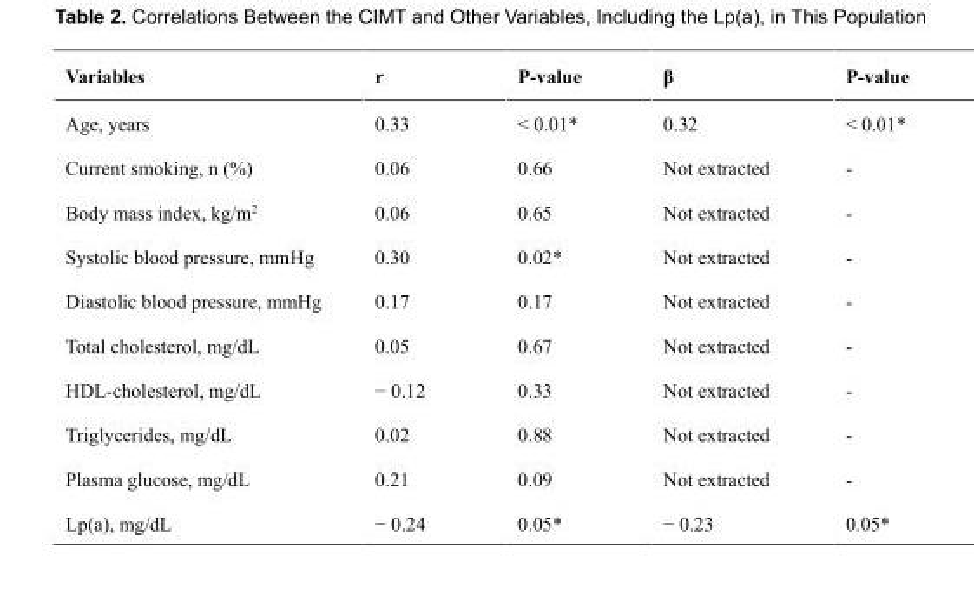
<table><thead><tr><td>Variables</td><td>r</td><td>P-value</td><td>β</td><td>P-value</td></tr></thead><tbody><tr><td>Age, years</td><td>0.33</td><td>&lt; 0.01*</td><td>0.32</td><td>&lt; 0.01*</td></tr><tr><td>Current smoking, n (%)</td><td>0.06</td><td>0.66</td><td>Not extracted</td><td>-</td></tr><tr><td>Body mass index, kg/m<sup>2</sup></td><td>0.06</td><td>0.65</td><td>Not extracted</td><td>-</td></tr><tr><td>Systolic blood pressure, mmHg</td><td>0.30</td><td>0.02*</td><td>Not extracted</td><td>-</td></tr><tr><td>Diastolic blood pressure, mmHg</td><td>0.17</td><td>0.17</td><td>Not extracted</td><td>-</td></tr><tr><td>Total cholesterol, mg/dL</td><td>0.05</td><td>0.67</td><td>Not extracted</td><td>-</td></tr><tr><td>HDL-cholesterol, mg/dL</td><td>− 0.12</td><td>0.33</td><td>Not extracted</td><td>-</td></tr><tr><td>Triglycerides, mg/dL</td><td>0.02</td><td>0.88</td><td>Not extracted</td><td>-</td></tr><tr><td>Plasma glucose, mg/dL</td><td>0.21</td><td>0.09</td><td>Not extracted</td><td>-</td></tr><tr><td>Lp(a), mg/dL</td><td>− 0.24</td><td>0.05*</td><td>− 0.23</td><td>0.05*</td></tr></tbody></table>